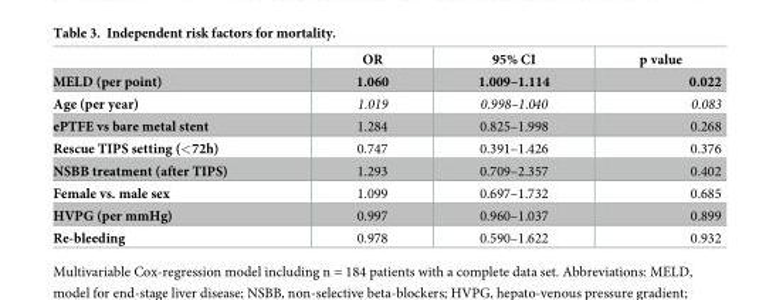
<table><thead><tr><td></td><td>OR</td><td>95% CI</td><td>p value</td></tr></thead><tbody><tr><td>MELD (per point)</td><td>1.060</td><td>1.009–1.114</td><td>0.022</td></tr><tr><td>Age (per year)</td><td>1.019</td><td>0.998–1.040</td><td>0.083</td></tr><tr><td>ePTFE vs bare metal stent</td><td>1.284</td><td>0.825–1.998</td><td>0.268</td></tr><tr><td>Rescue TIPS setting (&lt;72h)</td><td>0.747</td><td>0.391–1.426</td><td>0.376</td></tr><tr><td>NSBB treatment (after TIPS)</td><td>1.293</td><td>0.709–2.357</td><td>0.402</td></tr><tr><td>Female vs. male sex</td><td>1.099</td><td>0.697–1.732</td><td>0.685</td></tr><tr><td>HVPG (per mmHg)</td><td>0.997</td><td>0.960–1.037</td><td>0.899</td></tr><tr><td>Re-bleeding</td><td>0.978</td><td>0.590–1.622</td><td>0.932</td></tr></tbody></table>